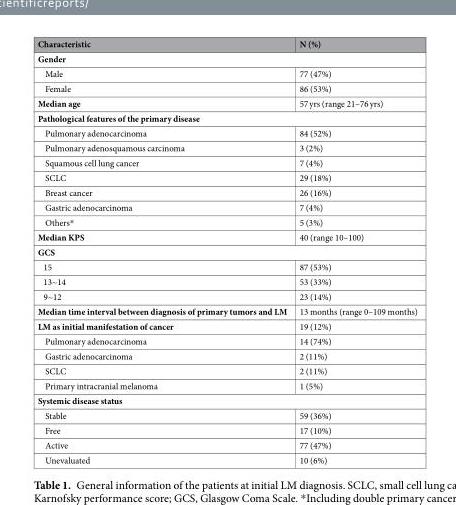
<table><thead><tr><td>Characteristic</td><td>N (%)</td></tr></thead><tbody><tr><td colspan="2">Gender</td></tr><tr><td>Male</td><td>77 (47%)</td></tr><tr><td>Female</td><td>86 (53%)</td></tr><tr><td>Median age</td><td>57 yrs (range 21–76 yrs)</td></tr><tr><td colspan="2">Pathological features of the primary disease</td></tr><tr><td>Pulmonary adenocarcinoma</td><td>84 (52%)</td></tr><tr><td>Pulmonary adenosquamous carcinoma</td><td>3 (2%)</td></tr><tr><td>Squamous cell lung cancer</td><td>7 (4%)</td></tr><tr><td>SCLC</td><td>29 (18%)</td></tr><tr><td>Breast cancer</td><td>26 (16%)</td></tr><tr><td>Gastric adenocarcinoma</td><td>7 (4%)</td></tr><tr><td>Others*</td><td>5 (3%)</td></tr><tr><td>Median KPS</td><td>40 (range 10–100)</td></tr><tr><td colspan="2">GCS</td></tr><tr><td>15</td><td>87 (53%)</td></tr><tr><td>13~14</td><td>53 (33%)</td></tr><tr><td>9~12</td><td>23 (14%)</td></tr><tr><td>Median time interval between diagnosis of primary tumors and LM</td><td>13 months (range 0–109 months)</td></tr><tr><td>LM as initial manifestation of cancer</td><td>19 (12%)</td></tr><tr><td>Pulmonary adenocarcinoma</td><td>14 (74%)</td></tr><tr><td>Gastric adenocarcinoma</td><td>2 (11%)</td></tr><tr><td>SCLC</td><td>2 (11%)</td></tr><tr><td>Primary intracranial melanoma</td><td>1 (5%)</td></tr><tr><td colspan="2">Systemic disease status</td></tr><tr><td>Stable</td><td>59 (36%)</td></tr><tr><td>Free</td><td>17 (10%)</td></tr><tr><td>Active</td><td>77 (47%)</td></tr><tr><td>Unevaluated</td><td>10 (6%)</td></tr></tbody></table>